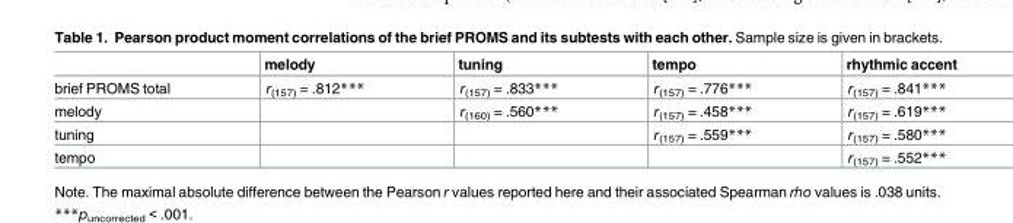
<table><thead><tr><td></td><td>melody</td><td>tuning</td><td>tempo</td><td>rhythmic accent</td></tr></thead><tbody><tr><td>brief PROMS total</td><td>r<sub>(157)</sub> = .812***</td><td>r<sub>(157)</sub> = .833***</td><td>r<sub>(157)</sub> = .776***</td><td>r<sub>(157)</sub> = .841***</td></tr><tr><td>melody</td><td></td><td>r<sub>(160)</sub> = .560***</td><td>r<sub>(157)</sub> = .458***</td><td>r<sub>(157)</sub> = .619***</td></tr><tr><td>tuning</td><td></td><td></td><td>r<sub>(157)</sub> = .559***</td><td>r<sub>(157)</sub> = .580***</td></tr><tr><td>tempo</td><td></td><td></td><td></td><td>r<sub>(157)</sub> = .552***</td></tr></tbody></table>